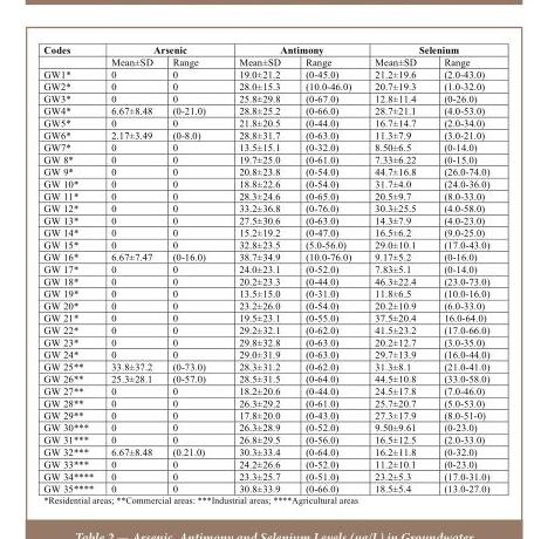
<table><thead><tr><td rowspan="2">Codes</td><td colspan="2">Arsenic</td><td colspan="2">Antimony</td><td colspan="2">Selenium</td></tr><tr><td>Mean±SD</td><td>Range</td><td>Mean±SD</td><td>Range</td><td>Mean±SD</td><td>Range</td></tr></thead><tbody><tr><td>GW1*</td><td>0</td><td>0</td><td>19.0±21.2</td><td>(0-45.0)</td><td>21.2±19.6</td><td>(2.0-43.0)</td></tr><tr><td>GW2*</td><td>0</td><td>0</td><td>28.0±15.3</td><td>(10.0-46.0)</td><td>20.7±19.3</td><td>(1.0-32.0)</td></tr><tr><td>GW3*</td><td>0</td><td>0</td><td>25.8±29.8</td><td>(0-67.0)</td><td>12.8±11.4</td><td>(0-26.0)</td></tr><tr><td>GW4*</td><td>6.67±8.48</td><td>(0-21.0)</td><td>28.8±25.2</td><td>(0-66.0)</td><td>28.7±21.1</td><td>(4.0-53.0)</td></tr><tr><td>GW5*</td><td>0</td><td>0</td><td>21.8±20.5</td><td>(0-44.0)</td><td>16.7±14.7</td><td>(2.0-34.0)</td></tr><tr><td>GW6*</td><td>2.17±3.49</td><td>(0-8.0)</td><td>28.8±31.7</td><td>(0-63.0)</td><td>11.3±7.9</td><td>(3.0-21.0)</td></tr><tr><td>GW7*</td><td>0</td><td>0</td><td>13.5±15.1</td><td>(0-32.0)</td><td>8.50±6.5</td><td>(0-14.0)</td></tr><tr><td>GW 8*</td><td>0</td><td>0</td><td>19.7±25.0</td><td>(0-61.0)</td><td>7.33±6.22</td><td>(0-15.0)</td></tr><tr><td>GW 9*</td><td>0</td><td>0</td><td>20.8±23.8</td><td>(0-54.0)</td><td>44.7±16.8</td><td>(26.0-74.0)</td></tr><tr><td>GW 10*</td><td>0</td><td>0</td><td>18.8±22.6</td><td>(0-54.0)</td><td>31.7±4.0</td><td>(24.0-36.0)</td></tr><tr><td>GW 11*</td><td>0</td><td>0</td><td>28.3±24.6</td><td>(0-65.0)</td><td>20.5±9.7</td><td>(8.0-33.0)</td></tr><tr><td>GW 12*</td><td>0</td><td>0</td><td>33.2±36.8</td><td>(0-76.0)</td><td>30.3±25.5</td><td>(4.0-58.0)</td></tr><tr><td>GW 13*</td><td>0</td><td>0</td><td>27.5±30.6</td><td>(0-63.0)</td><td>14.3±7.9</td><td>(4.0-23.0)</td></tr><tr><td>GW 14*</td><td>0</td><td>0</td><td>15.2±19.2</td><td>(0-47.0)</td><td>16.5±6.2</td><td>(9.0-25.0)</td></tr><tr><td>GW 15*</td><td>0</td><td>0</td><td>32.8±23.5</td><td>(5.0-56.0)</td><td>29.0±10.1</td><td>(17.0-43.0)</td></tr><tr><td>GW 16*</td><td>6.67±7.47</td><td>(0-16.0)</td><td>38.7±34.9</td><td>(10.0-76.0)</td><td>9.17±5.2</td><td>(0-16.0)</td></tr><tr><td>GW 17*</td><td>0</td><td>0</td><td>24.0±23.1</td><td>(0-52.0)</td><td>7.83±5.1</td><td>(0-14.0)</td></tr><tr><td>GW 18*</td><td>0</td><td>0</td><td>20.2±23.3</td><td>(0-44.0)</td><td>46.3±22.4</td><td>(23.0-73.0)</td></tr><tr><td>GW 19*</td><td>0</td><td>0</td><td>13.5±15.0</td><td>(0-31.0)</td><td>11.8±6.5</td><td>(10.0-16.0)</td></tr><tr><td>GW 20*</td><td>0</td><td>0</td><td>23.2±26.0</td><td>(0-54.0)</td><td>20.2±10.9</td><td>(6.0-33.0)</td></tr><tr><td>GW 21*</td><td>0</td><td>0</td><td>19.5±23.1</td><td>(0-55.0)</td><td>37.5±20.4</td><td>16.0-64.0)</td></tr><tr><td>GW 22*</td><td>0</td><td>0</td><td>29.2±32.1</td><td>(0-62.0)</td><td>41.5±23.2</td><td>(17.0-66.0)</td></tr><tr><td>GW 23*</td><td>0</td><td>0</td><td>29.8±32.8</td><td>(0-63.0)</td><td>20.2±12.7</td><td>(3.0-35.0)</td></tr><tr><td>GW 24*</td><td>0</td><td>0</td><td>29.0±31.9</td><td>(0-63.0)</td><td>29.7±13.9</td><td>(16.0-44.0)</td></tr><tr><td>GW 25**</td><td>33.8±37.2</td><td>(0-73.0)</td><td>28.3±31.2</td><td>(0-62.0)</td><td>31.3±8.1</td><td>(21.0-41.0)</td></tr><tr><td>GW 26**</td><td>25.3±28.1</td><td>(0-57.0)</td><td>28.5±31.5</td><td>(0-64.0)</td><td>44.5±10.8</td><td>(33.0-58.0)</td></tr><tr><td>GW 27**</td><td>0</td><td>0</td><td>18.2±20.6</td><td>(0-44.0)</td><td>24.5±17.8</td><td>(7.0-46.0)</td></tr><tr><td>GW 28**</td><td>0</td><td>0</td><td>26.3±29.2</td><td>(0-61.0)</td><td>25.7±20.7</td><td>(5.0-53.0)</td></tr><tr><td>GW 29**</td><td>0</td><td>0</td><td>17.8±20.0</td><td>(0-43.0)</td><td>27.3±17.9</td><td>(8.0-51-0)</td></tr><tr><td>GW 30***</td><td>0</td><td>0</td><td>26.3±28.9</td><td>(0-52.0)</td><td>9.50±9.61</td><td>(0-23.0)</td></tr><tr><td>GW 31***</td><td>0</td><td>0</td><td>26.8±29.5</td><td>(0-56.0)</td><td>16.5±12.5</td><td>(2.0-33.0)</td></tr><tr><td>GW 32***</td><td>6.67±8.48</td><td>(0.21.0)</td><td>30.3±33.4</td><td>(0-64.0)</td><td>16.2±11.8</td><td>(0-32.0)</td></tr><tr><td>GW 33***</td><td>0</td><td>0</td><td>24.2±26.6</td><td>(0-52.0)</td><td>11.2±10.1</td><td>(0-23.0)</td></tr><tr><td>GW 34****</td><td>0</td><td>0</td><td>23.3±25.7</td><td>(0-51.0)</td><td>23.2±5.3</td><td>(17.0-31.0)</td></tr><tr><td>GW 35****</td><td>0</td><td>0</td><td>30.8±33.9</td><td>(0-66.0)</td><td>18.5±5.4</td><td>(13.0-27.0)</td></tr></tbody></table>